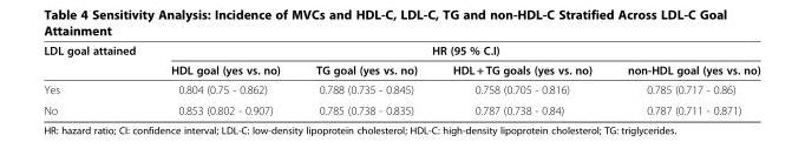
<table><thead><tr><td rowspan="2">LDL goal attained</td><td colspan="4">HR (95 % C.I)</td></tr><tr><td>HDL goal (yes vs. no)</td><td>TG goal (yes vs. no)</td><td>HDL + TG goals (yes vs. no)</td><td>non-HDL goal (yes vs. no)</td></tr></thead><tbody><tr><td>Yes</td><td>0.804 (0.75 - 0.862)</td><td>0.788 (0.735 - 0.845)</td><td>0.758 (0.705 - 0.816)</td><td>0.785 (0.717 - 0.86)</td></tr><tr><td>No</td><td>0.853 (0.802 - 0.907)</td><td>0.785 (0.738 - 0.835)</td><td>0.787 (0.738 - 0.84)</td><td>0.787 (0.711 - 0.871)</td></tr></tbody></table>